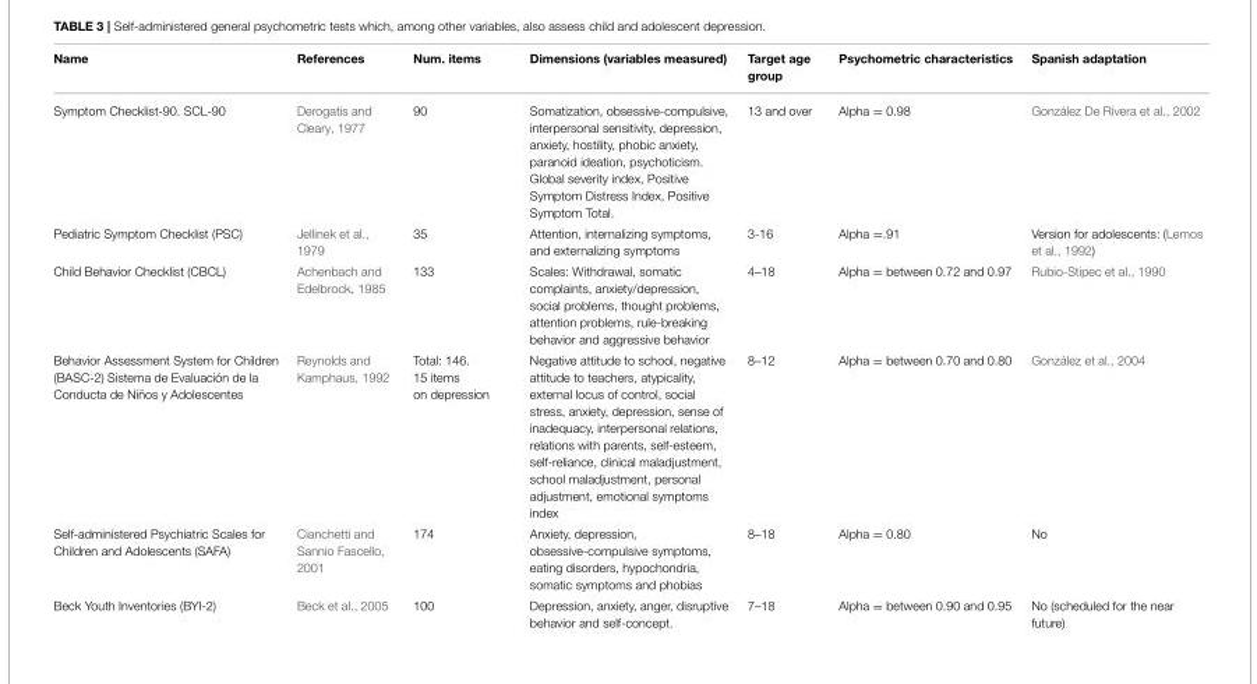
<table><thead><tr><td>Name</td><td>References</td><td>Num. items</td><td>Dimensions (variables measured)</td><td>Target age group</td><td>Psychometric characteristics</td><td>Spanish adaptation</td></tr></thead><tbody><tr><td>Symptom Checklist-90. SCL-90</td><td>Derogatis and Cleary, 1977</td><td>90</td><td>Somatization, obsessive-compulsive, interpersonal sensitivity, depression, anxiety, hostility, phobic anxiety, paranoid ideation, psychoticism. Global severity index, Positive Symptom Distress Index, Positive Symptom Total.</td><td>13 and over</td><td>Alpha = 0.98</td><td>González De Rivera et al., 2002</td></tr><tr><td>Pediatric Symptom Checklist (PSC)</td><td>Jellinek et al., 1979</td><td>35</td><td>Attention, internalizing symptoms, and externalizing symptoms</td><td>3-16</td><td>Alpha =.91</td><td>Version for adolescents: (Lemos et al., 1992)</td></tr><tr><td>Child Behavior Checklist (CBCL)</td><td>Achenbach and Edelbrock, 1985</td><td>133</td><td>Scales: Withdrawal, somatic complaints, anxiety/depression, social problems, thought problems, attention problems, rule-breaking behavior and aggressive behavior</td><td>4–18</td><td>Alpha = between 0.72 and 0.97</td><td>Rubio-Stipec et al., 1990</td></tr><tr><td>Behavior Assessment System for Children (BASC-2) Sistema de Evaluación de la Conducta de Niños y Adolescentes</td><td>Reynolds and Kamphaus, 1992</td><td>Total: 146. 15 items on depression</td><td>Negative attitude to school, negative attitude to teachers, atypicality, external locus of control, social stress, anxiety, depression, sense of inadequacy, interpersonal relations, relations with parents, self-esteem, self-reliance, clinical maladjustment, school maladjustment, personal adjustment, emotional symptoms index</td><td>8–12</td><td>Alpha = between 0.70 and 0.80</td><td>González et al., 2004</td></tr><tr><td>Self-administered Psychiatric Scales for Children and Adolescents (SAFA)</td><td>Cianchetti and Sannio Fascello, 2001</td><td>174</td><td>Anxiety, depression, obsessive-compulsive symptoms, eating disorders, hypochondria, somatic symptoms and phobias</td><td>8–18</td><td>Alpha = 0.80</td><td>No</td></tr><tr><td>Beck Youth Inventories (BYI-2)</td><td>Beck et al., 2005</td><td>100</td><td>Depression, anxiety, anger, disruptive behavior and self-concept.</td><td>7–18</td><td>Alpha = between 0.90 and 0.95</td><td>No (scheduled for the near future)</td></tr></tbody></table>